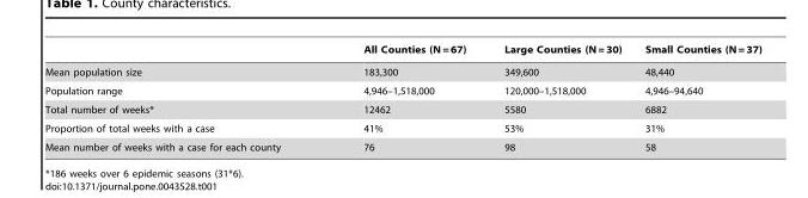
<table><thead><tr><td></td><td>All Counties (N = 67)</td><td>Large Counties (N = 30)</td><td>Small Counties (N = 37)</td></tr></thead><tbody><tr><td>Mean population size</td><td>183,300</td><td>349,600</td><td>48,440</td></tr><tr><td>Population range</td><td>4,946–1,518,000</td><td>120,000–1,518,000</td><td>4,946–94,640</td></tr><tr><td>Total number of weeks*</td><td>12462</td><td>5580</td><td>6882</td></tr><tr><td>Proportion of total weeks with a case</td><td>41%</td><td>53%</td><td>31%</td></tr><tr><td>Mean number of weeks with a case for each county</td><td>76</td><td>98</td><td>58</td></tr></tbody></table>